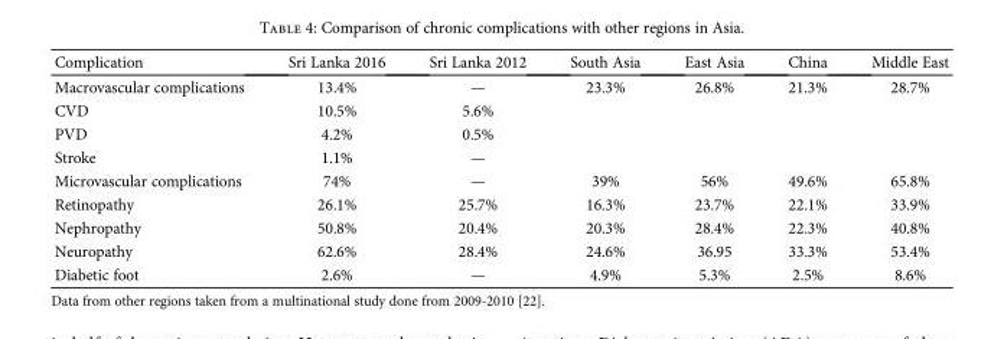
<table><thead><tr><td>Complication</td><td>Sri Lanka 2016</td><td>Sri Lanka 2012</td><td>South Asia</td><td>East Asia</td><td>China</td><td>Middle East</td></tr></thead><tbody><tr><td>Macrovascular complications</td><td>13.4%</td><td>—</td><td>23.3%</td><td>26.8%</td><td>21.3%</td><td>28.7%</td></tr><tr><td>CVD</td><td>10.5%</td><td>5.6%</td><td></td><td></td><td></td><td></td></tr><tr><td>PVD</td><td>4.2%</td><td>0.5%</td><td></td><td></td><td></td><td></td></tr><tr><td>Stroke</td><td>1.1%</td><td>—</td><td></td><td></td><td></td><td></td></tr><tr><td>Microvascular complications</td><td>74%</td><td>—</td><td>39%</td><td>56%</td><td>49.6%</td><td>65.8%</td></tr><tr><td>Retinopathy</td><td>26.1%</td><td>25.7%</td><td>16.3%</td><td>23.7%</td><td>22.1%</td><td>33.9%</td></tr><tr><td>Nephropathy</td><td>50.8%</td><td>20.4%</td><td>20.3%</td><td>28.4%</td><td>22.3%</td><td>40.8%</td></tr><tr><td>Neuropathy</td><td>62.6%</td><td>28.4%</td><td>24.6%</td><td>36.95</td><td>33.3%</td><td>53.4%</td></tr><tr><td>Diabetic foot</td><td>2.6%</td><td>—</td><td>4.9%</td><td>5.3%</td><td>2.5%</td><td>8.6%</td></tr></tbody></table>